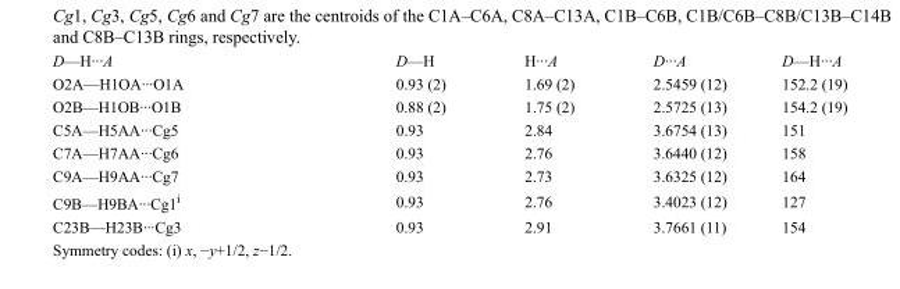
<table><tbody><tr><td>D—H···A</td><td>D—H</td><td>H···A</td><td>D···A</td><td>D—H···A</td></tr><tr><td>O2A—H1OA···O1A</td><td>0.93 (2)</td><td>1.69 (2)</td><td>2.5459 (12)</td><td>152.2 (19)</td></tr><tr><td>O2B—H1OB···O1B</td><td>0.88 (2)</td><td>1.75 (2)</td><td>2.5725 (13)</td><td>154.2 (19)</td></tr><tr><td>C5A—H5AA···Cg5</td><td>0.93</td><td>2.84</td><td>3.6754 (13)</td><td>151</td></tr><tr><td>C7A—H7AA···Cg6</td><td>0.93</td><td>2.76</td><td>3.6440 (12)</td><td>158</td></tr><tr><td>C9A—H9AA···Cg7</td><td>0.93</td><td>2.73</td><td>3.6325 (12)</td><td>164</td></tr><tr><td>C9B—H9BA···Cg1<sup>i</sup></td><td>0.93</td><td>2.76</td><td>3.4023 (12)</td><td>127</td></tr><tr><td>C23B—H23B···Cg3</td><td>0.93</td><td>2.91</td><td>3.7661 (11)</td><td>154</td></tr></tbody></table>